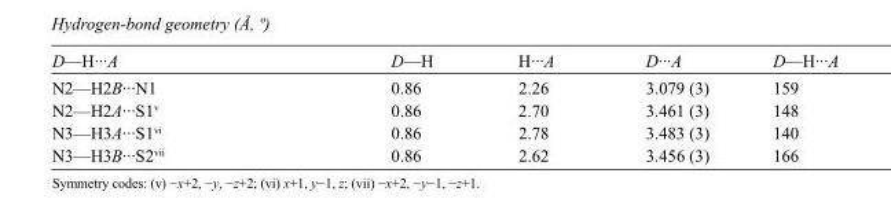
<table><tbody><tr><td>D—H···A</td><td>D—H</td><td>H···A</td><td>D···A</td><td>D—H···A</td></tr><tr><td>N2—H2B···N1</td><td>0.86</td><td>2.26</td><td>3.079 (3)</td><td>159</td></tr><tr><td>N2—H2A···S1<sup>v</sup></td><td>0.86</td><td>2.70</td><td>3.461 (3)</td><td>148</td></tr><tr><td>N3—H3A···S1<sup>vi</sup></td><td>0.86</td><td>2.78</td><td>3.483 (3)</td><td>140</td></tr><tr><td>N3—H3B···S2<sup>vii</sup></td><td>0.86</td><td>2.62</td><td>3.456 (3)</td><td>166</td></tr></tbody></table>